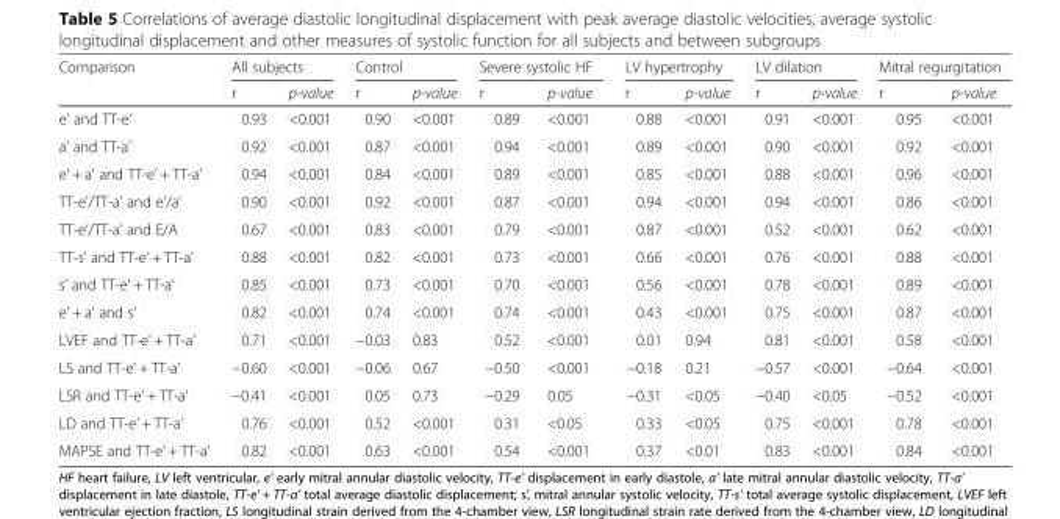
<table><thead><tr><td rowspan="2">Comparison</td><td colspan="2">All subjects</td><td colspan="2">Control</td><td colspan="2">Severe systolic HF</td><td colspan="2">LV hypertrophy</td><td colspan="2">LV dilation</td><td colspan="2">Mitral regurgitation</td></tr><tr><td>r</td><td>p-value</td><td>r</td><td>p-value</td><td>r</td><td>p-value</td><td>r</td><td>p-value</td><td>r</td><td>p-value</td><td>r</td><td>p-value</td></tr></thead><tbody><tr><td>e’ and TT-e’</td><td>0.93</td><td>&lt;0.001</td><td>0.90</td><td>&lt;0.001</td><td>0.89</td><td>&lt;0.001</td><td>0.88</td><td>&lt;0.001</td><td>0.91</td><td>&lt;0.001</td><td>0.95</td><td>&lt;0.001</td></tr><tr><td>a’ and TT-a’</td><td>0.92</td><td>&lt;0.001</td><td>0.87</td><td>&lt;0.001</td><td>0.94</td><td>&lt;0.001</td><td>0.89</td><td>&lt;0.001</td><td>0.90</td><td>&lt;0.001</td><td>0.92</td><td>&lt;0.001</td></tr><tr><td>e’ + a’ and TT-e’ + TT-a’</td><td>0.94</td><td>&lt;0.001</td><td>0.84</td><td>&lt;0.001</td><td>0.89</td><td>&lt;0.001</td><td>0.85</td><td>&lt;0.001</td><td>0.88</td><td>&lt;0.001</td><td>0.96</td><td>&lt;0.001</td></tr><tr><td>TT-e’/TT-a’ and e’/a’</td><td>0.90</td><td>&lt;0.001</td><td>0.92</td><td>&lt;0.001</td><td>0.87</td><td>&lt;0.001</td><td>0.94</td><td>&lt;0.001</td><td>0.94</td><td>&lt;0.001</td><td>0.86</td><td>&lt;0.001</td></tr><tr><td>TT-e’/TT-a’ and E/A</td><td>0.67</td><td>&lt;0.001</td><td>0.83</td><td>&lt;0.001</td><td>0.79</td><td>&lt;0.001</td><td>0.87</td><td>&lt;0.001</td><td>0.52</td><td>&lt;0.001</td><td>0.62</td><td>&lt;0.001</td></tr><tr><td>TT-s’ and TT-e’ + TT-a’</td><td>0.88</td><td>&lt;0.001</td><td>0.82</td><td>&lt;0.001</td><td>0.73</td><td>&lt;0.001</td><td>0.66</td><td>&lt;0.001</td><td>0.76</td><td>&lt;0.001</td><td>0.88</td><td>&lt;0.001</td></tr><tr><td>s’ and TT-e’ + TT-a’</td><td>0.85</td><td>&lt;0.001</td><td>0.73</td><td>&lt;0.001</td><td>0.70</td><td>&lt;0.001</td><td>0.56</td><td>&lt;0.001</td><td>0.78</td><td>&lt;0.001</td><td>0.89</td><td>&lt;0.001</td></tr><tr><td>e’ + a’ and s’</td><td>0.82</td><td>&lt;0.001</td><td>0.74</td><td>&lt;0.001</td><td>0.74</td><td>&lt;0.001</td><td>0.43</td><td>&lt;0.001</td><td>0.75</td><td>&lt;0.001</td><td>0.87</td><td>&lt;0.001</td></tr><tr><td>LVEF and TT-e’ + TT-a’</td><td>0.71</td><td>&lt;0.001</td><td>−0.03</td><td>0.83</td><td>0.52</td><td>&lt;0.001</td><td>0.01</td><td>0.94</td><td>0.81</td><td>&lt;0.001</td><td>0.58</td><td>&lt;0.001</td></tr><tr><td>LS and TT-e’ + TT-a’</td><td>−0.60</td><td>&lt;0.001</td><td>−0.06</td><td>0.67</td><td>−0.50</td><td>&lt;0.001</td><td>−0.18</td><td>0.21</td><td>−0.57</td><td>&lt;0.001</td><td>−0.64</td><td>&lt;0.001</td></tr><tr><td>LSR and TT-e’ + TT-a’</td><td>−0.41</td><td>&lt;0.001</td><td>0.05</td><td>0.73</td><td>−0.29</td><td>0.05</td><td>−0.31</td><td>&lt;0.05</td><td>−0.40</td><td>&lt;0.05</td><td>−0.52</td><td>&lt;0.001</td></tr><tr><td>LD and TT-e’ + TT-a’</td><td>0.76</td><td>&lt;0.001</td><td>0.52</td><td>&lt;0.001</td><td>0.31</td><td>&lt;0.05</td><td>0.33</td><td>&lt;0.05</td><td>0.75</td><td>&lt;0.001</td><td>0.78</td><td>&lt;0.001</td></tr><tr><td>MAPSE and TT-e’ + TT-a’</td><td>0.82</td><td>&lt;0.001</td><td>0.63</td><td>&lt;0.001</td><td>0.54</td><td>&lt;0.001</td><td>0.37</td><td>&lt;0.01</td><td>0.83</td><td>&lt;0.001</td><td>0.84</td><td>&lt;0.001</td></tr></tbody></table>